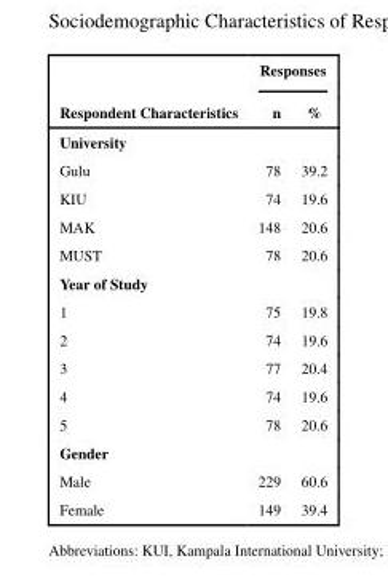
<table><thead><tr><td rowspan="2">Respondent Characteristics</td><td colspan="2">Responses</td></tr><tr><td>n</td><td>%</td></tr></thead><tbody><tr><td colspan="3">University</td></tr><tr><td>Gulu</td><td>78</td><td>39.2</td></tr><tr><td>KIU</td><td>74</td><td>19.6</td></tr><tr><td>MAK</td><td>148</td><td>20.6</td></tr><tr><td>MUST</td><td>78</td><td>20.6</td></tr><tr><td colspan="3">Year of Study</td></tr><tr><td>1</td><td>75</td><td>19.8</td></tr><tr><td>2</td><td>74</td><td>19.6</td></tr><tr><td>3</td><td>77</td><td>20.4</td></tr><tr><td>4</td><td>74</td><td>19.6</td></tr><tr><td>5</td><td>78</td><td>20.6</td></tr><tr><td colspan="3">Gender</td></tr><tr><td>Male</td><td>229</td><td>60.6</td></tr><tr><td>Female</td><td>149</td><td>39.4</td></tr></tbody></table>